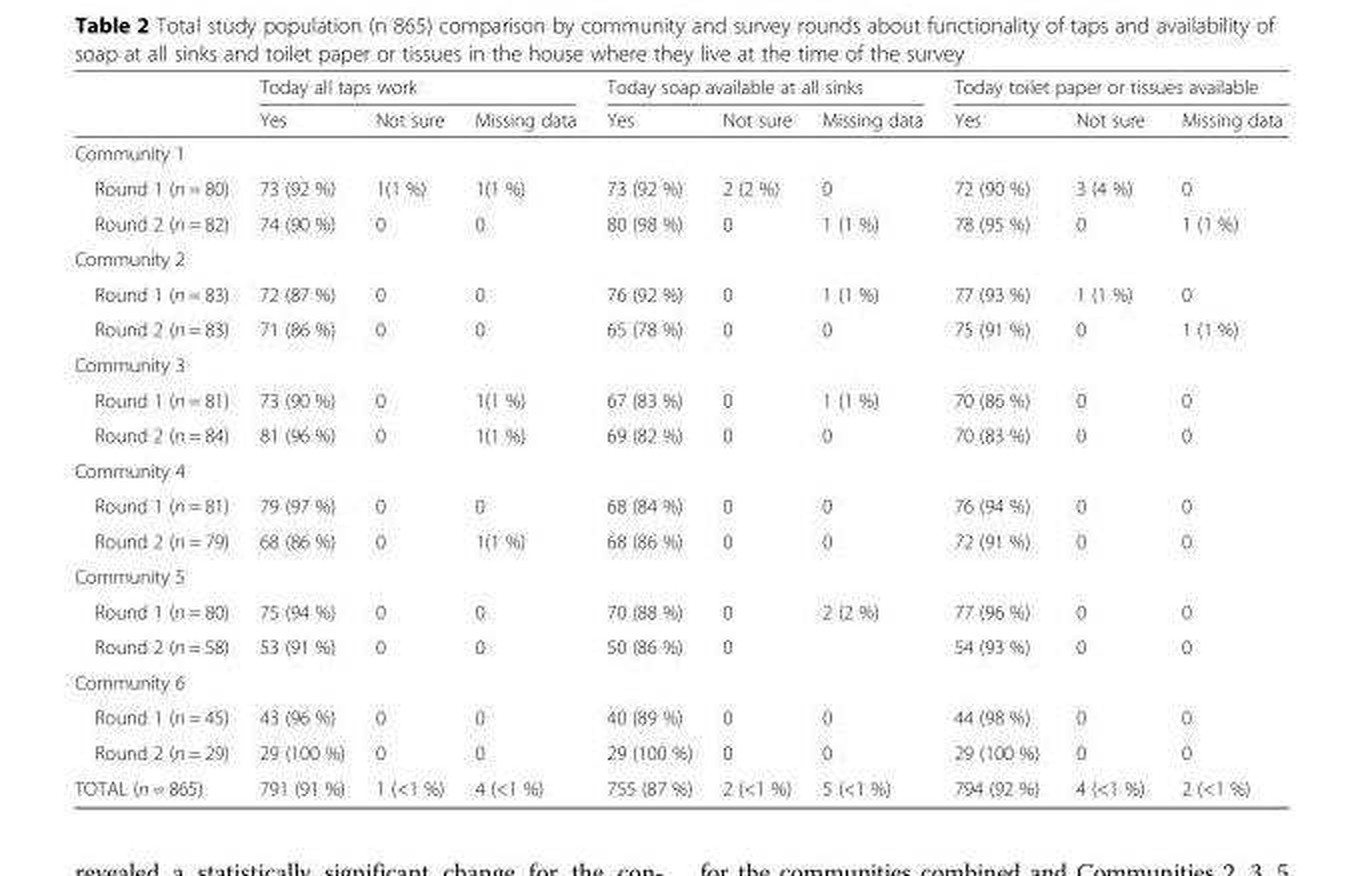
<table><thead><tr><td rowspan="2"></td><td colspan="3">Today all taps work</td><td colspan="3">Today soap available at all sinks</td><td colspan="3">Today toilet paper or tissues available</td></tr><tr><td>Yes</td><td>Not sure</td><td>Missing data</td><td>Yes</td><td>Not sure</td><td>Missing data</td><td>Yes</td><td>Not sure</td><td>Missing data</td></tr></thead><tbody><tr><td colspan="10">Community 1</td></tr><tr><td>Round 1 (n = 80)</td><td>73 (92 %)</td><td>1(1 %)</td><td>1(1 %)</td><td>73 (92 %)</td><td>2 (2 %)</td><td>0</td><td>72 (90 %)</td><td>3 (4 %)</td><td>0</td></tr><tr><td>Round 2 (n = 82)</td><td>74 (90 %)</td><td>0</td><td>0</td><td>80 (98 %)</td><td>0</td><td>1 (1 %)</td><td>78 (95 %)</td><td>0</td><td>1 (1 %)</td></tr><tr><td colspan="10">Community 2</td></tr><tr><td>Round 1 (n = 83)</td><td>72 (87 %)</td><td>0</td><td>0</td><td>76 (92 %)</td><td>0</td><td>1 (1 %)</td><td>77 (93 %)</td><td>1 (1 %)</td><td>0</td></tr><tr><td>Round 2 (n = 83)</td><td>71 (86 %)</td><td>0</td><td>0</td><td>65 (78 %)</td><td>0</td><td>0</td><td>75 (91 %)</td><td>0</td><td>1 (1 %)</td></tr><tr><td colspan="10">Community 3</td></tr><tr><td>Round 1 (n = 81)</td><td>73 (90 %)</td><td>0</td><td>1(1 %)</td><td>67 (83 %)</td><td>0</td><td>1 (1 %)</td><td>70 (86 %)</td><td>0</td><td>0</td></tr><tr><td>Round 2 (n = 84)</td><td>81 (96 %)</td><td>0</td><td>1(1 %)</td><td>69 (82 %)</td><td>0</td><td>0</td><td>70 (83 %)</td><td>0</td><td>0</td></tr><tr><td colspan="10">Community 4</td></tr><tr><td>Round 1 (n = 81)</td><td>79 (97 %)</td><td>0</td><td>0</td><td>68 (84 %)</td><td>0</td><td>0</td><td>76 (94 %)</td><td>0</td><td>0</td></tr><tr><td>Round 2 (n = 79)</td><td>68 (86 %)</td><td>0</td><td>1(1 %)</td><td>68 (86 %)</td><td>0</td><td>0</td><td>72 (91 %)</td><td>0</td><td>0</td></tr><tr><td colspan="10">Community 5</td></tr><tr><td>Round 1 (n = 80)</td><td>75 (94 %)</td><td>0</td><td>0</td><td>70 (88 %)</td><td>0</td><td>2 (2 %)</td><td>77 (96 %)</td><td>0</td><td>0</td></tr><tr><td>Round 2 (n = 58)</td><td>53 (91 %)</td><td>0</td><td>0</td><td>50 (86 %)</td><td>0</td><td></td><td>54 (93 %)</td><td>0</td><td>0</td></tr><tr><td colspan="10">Community 6</td></tr><tr><td>Round 1 (n = 45)</td><td>43 (96 %)</td><td>0</td><td>0</td><td>40 (89 %)</td><td>0</td><td>0</td><td>44 (98 %)</td><td>0</td><td>0</td></tr><tr><td>Round 2 (n = 29)</td><td>29 (100 %)</td><td>0</td><td>0</td><td>29 (100 %)</td><td>0</td><td>0</td><td>29 (100 %)</td><td>0</td><td>0</td></tr><tr><td>TOTAL (n = 865)</td><td>791 (91 %)</td><td>1 (&lt;1 %)</td><td>4 (&lt;1 %)</td><td>755 (87 %)</td><td>2 (&lt;1 %)</td><td>5 (&lt;1 %)</td><td>794 (92 %)</td><td>4 (&lt;1 %)</td><td>2 (&lt;1 %)</td></tr></tbody></table>